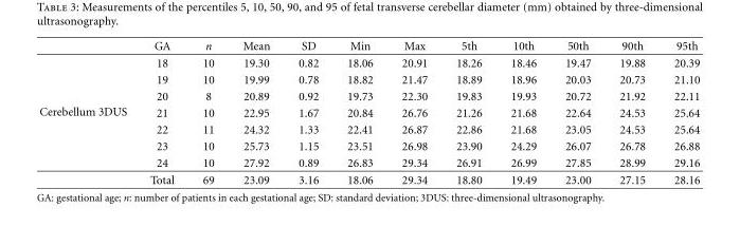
<table><thead><tr><td></td><td>GA</td><td>n</td><td>Mean</td><td>SD</td><td>Min</td><td>Max</td><td>5th</td><td>10th</td><td>50th</td><td>90th</td><td>95th</td></tr></thead><tbody><tr><td rowspan="8">Cerebellum 3DUS</td><td>18</td><td>10</td><td>19.30</td><td>0.82</td><td>18.06</td><td>20.91</td><td>18.26</td><td>18.46</td><td>19.47</td><td>19.88</td><td>20.39</td></tr><tr><td>19</td><td>10</td><td>19.99</td><td>0.78</td><td>18.82</td><td>21.47</td><td>18.89</td><td>18.96</td><td>20.03</td><td>20.73</td><td>21.10</td></tr><tr><td>20</td><td>8</td><td>20.89</td><td>0.92</td><td>19.73</td><td>22.30</td><td>19.83</td><td>19.93</td><td>20.72</td><td>21.92</td><td>22.11</td></tr><tr><td>21</td><td>10</td><td>22.95</td><td>1.67</td><td>20.84</td><td>26.76</td><td>21.26</td><td>21.68</td><td>22.64</td><td>24.53</td><td>25.64</td></tr><tr><td>22</td><td>11</td><td>24.32</td><td>1.33</td><td>22.41</td><td>26.87</td><td>22.86</td><td>21.68</td><td>23.05</td><td>24.53</td><td>25.64</td></tr><tr><td>23</td><td>10</td><td>25.73</td><td>1.15</td><td>23.51</td><td>26.98</td><td>23.90</td><td>24.29</td><td>26.07</td><td>26.78</td><td>26.88</td></tr><tr><td>24</td><td>10</td><td>27.92</td><td>0.89</td><td>26.83</td><td>29.34</td><td>26.91</td><td>26.99</td><td>27.85</td><td>28.99</td><td>29.16</td></tr><tr><td>Total</td><td>69</td><td>23.09</td><td>3.16</td><td>18.06</td><td>29.34</td><td>18.80</td><td>19.49</td><td>23.00</td><td>27.15</td><td>28.16</td></tr></tbody></table>